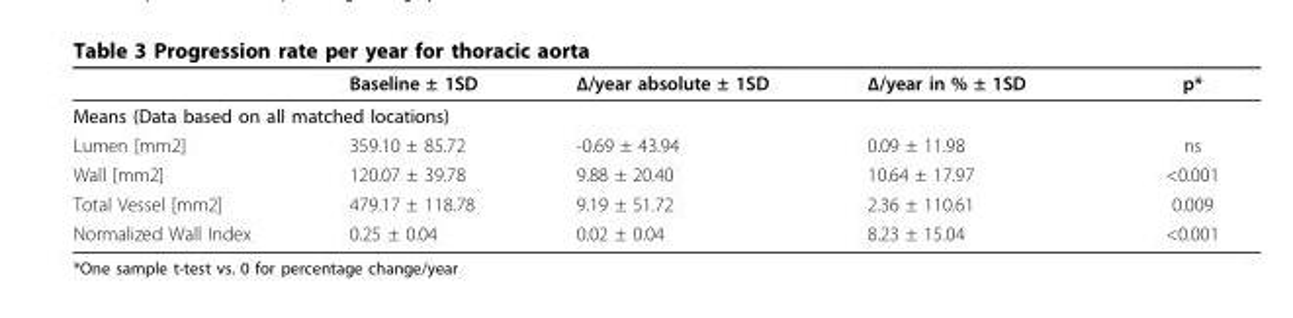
<table><thead><tr><td></td><td>Baseline ± 1SD</td><td>Δ/year absolute ± 1SD</td><td>Δ/year in % ± 1SD</td><td>p*</td></tr></thead><tbody><tr><td colspan="5">Means (Data based on all matched locations)</td></tr><tr><td>Lumen [mm2]</td><td>359.10 ± 85.72</td><td>-0.69 ± 43.94</td><td>0.09 ± 11.98</td><td>ns</td></tr><tr><td>Wall [mm2]</td><td>120.07 ± 39.78</td><td>9.88 ± 20.40</td><td>10.64 ± 17.97</td><td>&lt;0.001</td></tr><tr><td>Total Vessel [mm2]</td><td>479.17 ± 118.78</td><td>9.19 ± 51.72</td><td>2.36 ± 110.61</td><td>0.009</td></tr><tr><td>Normalized Wall Index</td><td>0.25 ± 0.04</td><td>0.02 ± 0.04</td><td>8.23 ± 15.04</td><td>&lt;0.001</td></tr></tbody></table>